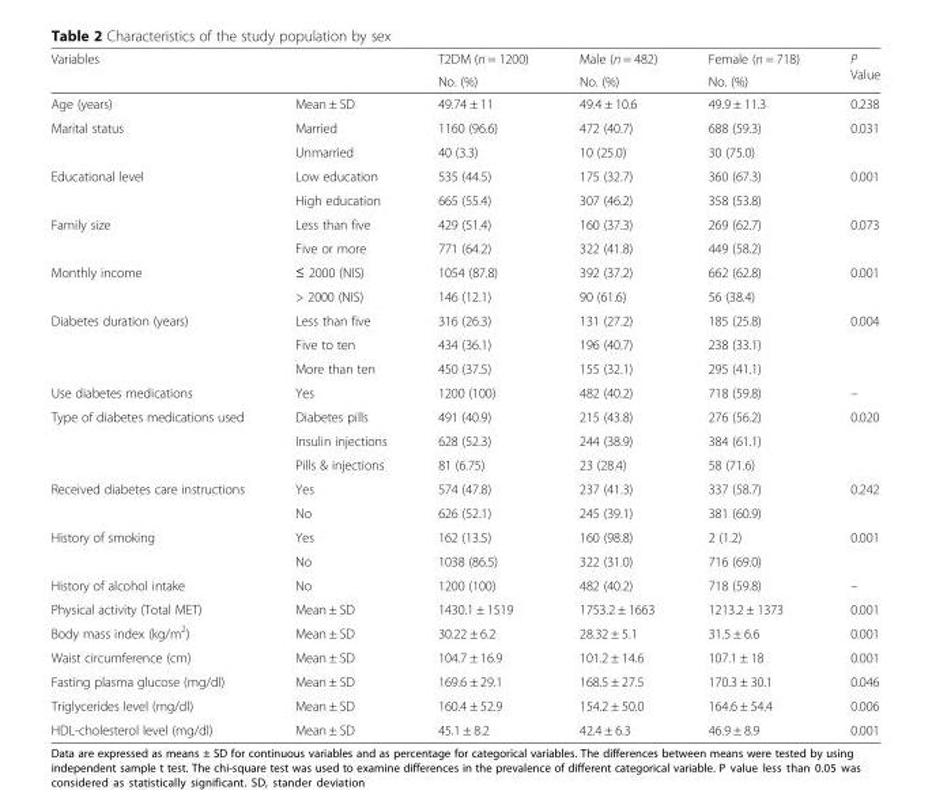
<table><thead><tr><td rowspan="2" colspan="2">Variables</td><td rowspan="3">T2DM (n = 1200) No. (%) 49.74 ± 11</td><td rowspan="3">Male (n = 482) No. (%) 49.4 ± 10.6</td><td rowspan="3">Female (n = 718) No. (%) 49.9 ± 11.3</td><td rowspan="3">P Value 0.238</td></tr><tr></tr><tr><td>Age (years)</td><td>Mean ± SD</td></tr></thead><tbody><tr><td rowspan="2">Marital status</td><td>Married</td><td>1160 (96.6)</td><td>472 (40.7)</td><td>688 (59.3)</td><td rowspan="2">0.031</td></tr><tr><td>Unmarried</td><td>40 (3.3)</td><td>10 (25.0)</td><td>30 (75.0)</td></tr><tr><td rowspan="2">Educational level</td><td>Low education</td><td>535 (44.5)</td><td>175 (32.7)</td><td>360 (67.3)</td><td rowspan="2">0.001</td></tr><tr><td>High education</td><td>665 (55.4)</td><td>307 (46.2)</td><td>358 (53.8)</td></tr><tr><td rowspan="2">Family size</td><td>Less than five</td><td>429 (51.4)</td><td>160 (37.3)</td><td>269 (62.7)</td><td rowspan="2">0.073</td></tr><tr><td>Five or more</td><td>771 (64.2)</td><td>322 (41.8)</td><td>449 (58.2)</td></tr><tr><td rowspan="2">Monthly income</td><td>≤ 2000 (NIS)</td><td>1054 (87.8)</td><td>392 (37.2)</td><td>662 (62.8)</td><td rowspan="2">0.001</td></tr><tr><td>&gt; 2000 (NIS)</td><td>146 (12.1)</td><td>90 (61.6)</td><td>56 (38.4)</td></tr><tr><td rowspan="3">Diabetes duration (years)</td><td>Less than five</td><td>316 (26.3)</td><td>131 (27.2)</td><td>185 (25.8)</td><td rowspan="3">0.004</td></tr><tr><td>Five to ten</td><td>434 (36.1)</td><td>196 (40.7)</td><td>238 (33.1)</td></tr><tr><td>More than ten</td><td>450 (37.5)</td><td>155 (32.1)</td><td>295 (41.1)</td></tr><tr><td>Use diabetes medications</td><td>Yes</td><td>1200 (100)</td><td>482 (40.2)</td><td>718 (59.8)</td><td>–</td></tr><tr><td rowspan="3">Type of diabetes medications used</td><td>Diabetes pills</td><td>491 (40.9)</td><td>215 (43.8)</td><td>276 (56.2)</td><td rowspan="3">0.020</td></tr><tr><td>Insulin injections</td><td>628 (52.3)</td><td>244 (38.9)</td><td>384 (61.1)</td></tr><tr><td>Pills &amp; injections</td><td>81 (6.75)</td><td>23 (28.4)</td><td>58 (71.6)</td></tr><tr><td rowspan="2">Received diabetes care instructions</td><td>Yes</td><td>574 (47.8)</td><td>237 (41.3)</td><td>337 (58.7)</td><td rowspan="2">0.242</td></tr><tr><td>No</td><td>626 (52.1)</td><td>245 (39.1)</td><td>381 (60.9)</td></tr><tr><td rowspan="2">History of smoking</td><td>Yes</td><td>162 (13.5)</td><td>160 (98.8)</td><td>2 (1.2)</td><td rowspan="2">0.001</td></tr><tr><td>No</td><td>1038 (86.5)</td><td>322 (31.0)</td><td>716 (69.0)</td></tr><tr><td>History of alcohol intake</td><td>No</td><td>1200 (100)</td><td>482 (40.2)</td><td>718 (59.8)</td><td>–</td></tr><tr><td>Physical activity (Total MET)</td><td>Mean ± SD</td><td>1430.1 ± 1519</td><td>1753.2 ± 1663</td><td>1213.2 ± 1373</td><td>0.001</td></tr><tr><td>Body mass index (kg/m<sup>2</sup>)</td><td>Mean ± SD</td><td>30.22 ± 6.2</td><td>28.32 ± 5.1</td><td>31.5 ± 6.6</td><td>0.001</td></tr><tr><td>Waist circumference (cm)</td><td>Mean ± SD</td><td>104.7 ± 16.9</td><td>101.2 ± 14.6</td><td>107.1 ± 18</td><td>0.001</td></tr><tr><td>Fasting plasma glucose (mg/dl)</td><td>Mean ± SD</td><td>169.6 ± 29.1</td><td>168.5 ± 27.5</td><td>170.3 ± 30.1</td><td>0.046</td></tr><tr><td>Triglycerides level (mg/dl)</td><td>Mean ± SD</td><td>160.4 ± 52.9</td><td>154.2 ± 50.0</td><td>164.6 ± 54.4</td><td>0.006</td></tr><tr><td>HDL-cholesterol level (mg/dl)</td><td>Mean ± SD</td><td>45.1 ± 8.2</td><td>42.4 ± 6.3</td><td>46.9 ± 8.9</td><td>0.001</td></tr></tbody></table>